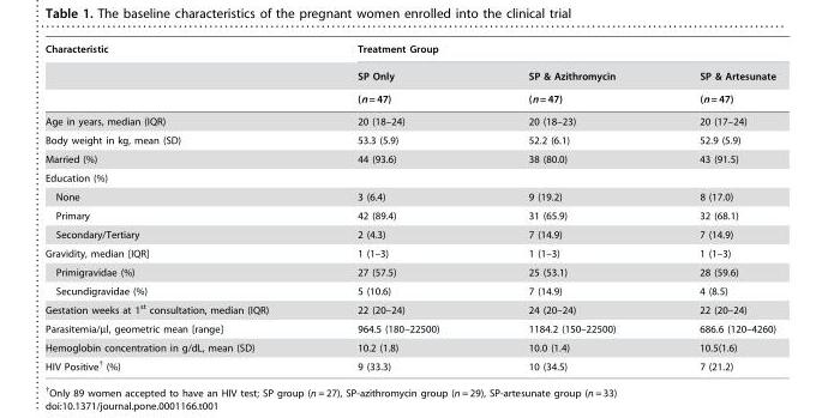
<table><thead><tr><td rowspan="3">Characteristic</td><td colspan="3">Treatment Group</td></tr><tr><td rowspan="2">SP Only (n = 47)</td><td rowspan="2">SP &amp; Azithromycin (n = 47)</td><td rowspan="2">SP &amp; Artesunate (n = 47)</td></tr><tr></tr></thead><tbody><tr><td>Age in years, median (IQR)</td><td>20 (18–24)</td><td>20 (18–23)</td><td>20 (17–24)</td></tr><tr><td>Body weight in kg, mean (SD)</td><td>53.3 (5.9)</td><td>52.2 (6.1)</td><td>52.9 (5.9)</td></tr><tr><td>Married (%)</td><td>44 (93.6)</td><td>38 (80.0)</td><td>43 (91.5)</td></tr><tr><td colspan="4">Education (%)</td></tr><tr><td>None</td><td>3 (6.4)</td><td>9 (19.2)</td><td>8 (17.0)</td></tr><tr><td>Primary</td><td>42 (89.4)</td><td>31 (65.9)</td><td>32 (68.1)</td></tr><tr><td>Secondary/Tertiary</td><td>2 (4.3)</td><td>7 (14.9)</td><td>7 (14.9)</td></tr><tr><td>Gravidity, median [IQR]</td><td>1 (1–3)</td><td>1 (1–3)</td><td>1 (1–3)</td></tr><tr><td>Primigravidae (%)</td><td>27 (57.5)</td><td>25 (53.1)</td><td>28 (59.6)</td></tr><tr><td>Secundigravidae (%)</td><td>5 (10.6)</td><td>7 (14.9)</td><td>4 (8.5)</td></tr><tr><td>Gestation weeks at 1<sup>st</sup> consultation, median (IQR)</td><td>22 (20–24)</td><td>24 (20–24)</td><td>22 (20–24)</td></tr><tr><td>Parasitemia/µl, geometric mean [range]</td><td>964.5 (180–22500)</td><td>1184.2 (150–22500)</td><td>686.6 (120–4260)</td></tr><tr><td>Hemoglobin concentration in g/dL, mean (SD)</td><td>10.2 (1.8)</td><td>10.0 (1.4)</td><td>10.5(1.6)</td></tr><tr><td>HIV Positive† (%)</td><td>9 (33.3)</td><td>10 (34.5)</td><td>7 (21.2)</td></tr></tbody></table>